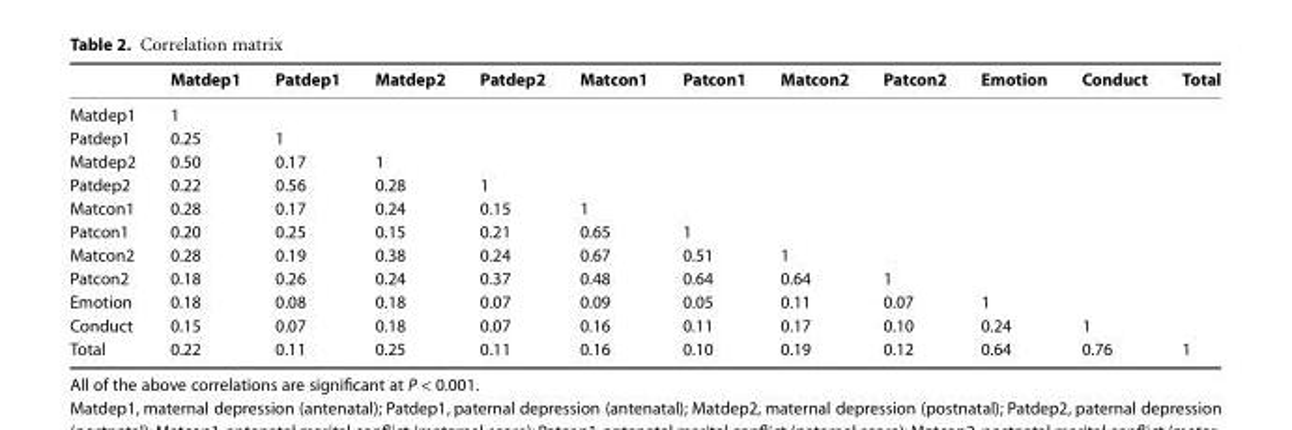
<table><thead><tr><td></td><td>Matdep1</td><td>Patdep1</td><td>Matdep2</td><td>Patdep2</td><td>Matcon1</td><td>Patcon1</td><td>Matcon2</td><td>Patcon2</td><td>Emotion</td><td>Conduct</td><td>Total</td></tr></thead><tbody><tr><td>Matdep1</td><td>1</td><td></td><td></td><td></td><td></td><td></td><td></td><td></td><td></td><td></td><td></td></tr><tr><td>Patdep1</td><td>0.25</td><td>1</td><td></td><td></td><td></td><td></td><td></td><td></td><td></td><td></td><td></td></tr><tr><td>Matdep2</td><td>0.50</td><td>0.17</td><td>1</td><td></td><td></td><td></td><td></td><td></td><td></td><td></td><td></td></tr><tr><td>Patdep2</td><td>0.22</td><td>0.56</td><td>0.28</td><td>1</td><td></td><td></td><td></td><td></td><td></td><td></td><td></td></tr><tr><td>Matcon1</td><td>0.28</td><td>0.17</td><td>0.24</td><td>0.15</td><td>1</td><td></td><td></td><td></td><td></td><td></td><td></td></tr><tr><td>Patcon1</td><td>0.20</td><td>0.25</td><td>0.15</td><td>0.21</td><td>0.65</td><td>1</td><td></td><td></td><td></td><td></td><td></td></tr><tr><td>Matcon2</td><td>0.28</td><td>0.19</td><td>0.38</td><td>0.24</td><td>0.67</td><td>0.51</td><td>1</td><td></td><td></td><td></td><td></td></tr><tr><td>Patcon2</td><td>0.18</td><td>0.26</td><td>0.24</td><td>0.37</td><td>0.48</td><td>0.64</td><td>0.64</td><td>1</td><td></td><td></td><td></td></tr><tr><td>Emotion</td><td>0.18</td><td>0.08</td><td>0.18</td><td>0.07</td><td>0.09</td><td>0.05</td><td>0.11</td><td>0.07</td><td>1</td><td></td><td></td></tr><tr><td>Conduct</td><td>0.15</td><td>0.07</td><td>0.18</td><td>0.07</td><td>0.16</td><td>0.11</td><td>0.17</td><td>0.10</td><td>0.24</td><td>1</td><td></td></tr><tr><td>Total</td><td>0.22</td><td>0.11</td><td>0.25</td><td>0.11</td><td>0.16</td><td>0.10</td><td>0.19</td><td>0.12</td><td>0.64</td><td>0.76</td><td>1</td></tr></tbody></table>